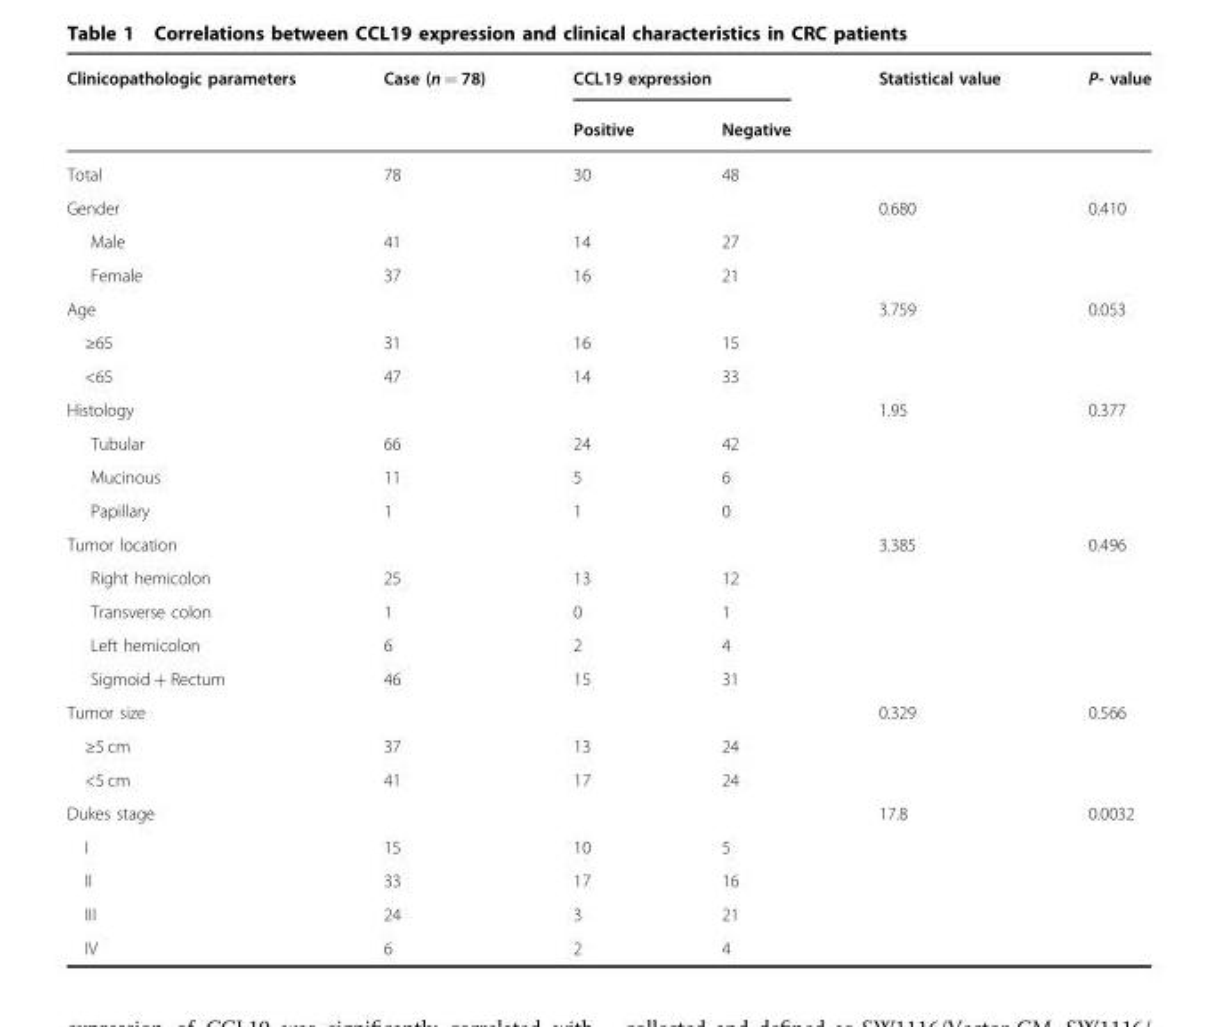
<table><thead><tr><td rowspan="2">Clinicopathologic parameters</td><td rowspan="2">Case (n = 78)</td><td colspan="2">CCL19 expression</td><td rowspan="2">Statistical value</td><td rowspan="2">P- value</td></tr><tr><td>Positive</td><td>Negative</td></tr></thead><tbody><tr><td>Total</td><td>78</td><td>30</td><td>48</td><td></td><td></td></tr><tr><td>Gender</td><td></td><td></td><td></td><td>0.680</td><td>0.410</td></tr><tr><td>Male</td><td>41</td><td>14</td><td>27</td><td></td><td></td></tr><tr><td>Female</td><td>37</td><td>16</td><td>21</td><td></td><td></td></tr><tr><td>Age</td><td></td><td></td><td></td><td>3.759</td><td>0.053</td></tr><tr><td>≥65</td><td>31</td><td>16</td><td>15</td><td></td><td></td></tr><tr><td>&lt;65</td><td>47</td><td>14</td><td>33</td><td></td><td></td></tr><tr><td>Histology</td><td></td><td></td><td></td><td>1.95</td><td>0.377</td></tr><tr><td>Tubular</td><td>66</td><td>24</td><td>42</td><td></td><td></td></tr><tr><td>Mucinous</td><td>11</td><td>5</td><td>6</td><td></td><td></td></tr><tr><td>Papillary</td><td>1</td><td>1</td><td>0</td><td></td><td></td></tr><tr><td>Tumor location</td><td></td><td></td><td></td><td>3.385</td><td>0.496</td></tr><tr><td>Right hemicolon</td><td>25</td><td>13</td><td>12</td><td></td><td></td></tr><tr><td>Transverse colon</td><td>1</td><td>0</td><td>1</td><td></td><td></td></tr><tr><td>Left hemicolon</td><td>6</td><td>2</td><td>4</td><td></td><td></td></tr><tr><td>Sigmoid + Rectum</td><td>46</td><td>15</td><td>31</td><td></td><td></td></tr><tr><td>Tumor size</td><td></td><td></td><td></td><td>0.329</td><td>0.566</td></tr><tr><td>≥5 cm</td><td>37</td><td>13</td><td>24</td><td></td><td></td></tr><tr><td>&lt;5 cm</td><td>41</td><td>17</td><td>24</td><td></td><td></td></tr><tr><td>Dukes stage</td><td></td><td></td><td></td><td>17.8</td><td>0.0032</td></tr><tr><td>I</td><td>15</td><td>10</td><td>5</td><td></td><td></td></tr><tr><td>II</td><td>33</td><td>17</td><td>16</td><td></td><td></td></tr><tr><td>III</td><td>24</td><td>3</td><td>21</td><td></td><td></td></tr><tr><td>IV</td><td>6</td><td>2</td><td>4</td><td></td><td></td></tr></tbody></table>